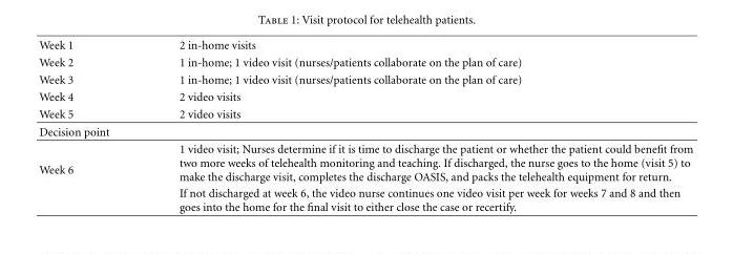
<table><tbody><tr><td>Week 1</td><td>2 in-home visits</td></tr><tr><td>Week 2</td><td>1 in-home; 1 video visit (nurses/patients collaborate on the plan of care)</td></tr><tr><td>Week 3</td><td>1 in-home; 1 video visit (nurses/patients collaborate on the plan of care)</td></tr><tr><td>Week 4</td><td>2 video visits</td></tr><tr><td>Week 5</td><td>2 video visits</td></tr><tr><td colspan="2">Decision point</td></tr><tr><td rowspan="2">Week 6</td><td>1 video visit; Nurses determine if it is time to discharge the patient or whether the patient could benefit from two more weeks of telehealth monitoring and teaching. If discharged, the nurse goes to the home (visit 5) to make the discharge visit, completes the discharge OASIS, and packs the telehealth equipment for return.</td></tr><tr><td>If not discharged at week 6, the video nurse continues one video visit per week for weeks 7 and 8 and then goes into the home for the final visit to either close the case or recertify.</td></tr></tbody></table>